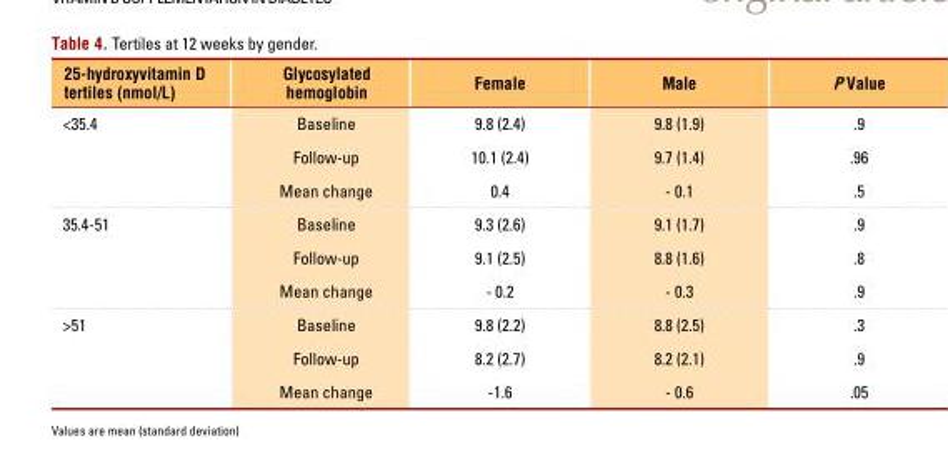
<table><thead><tr><td>25-hydroxyvitamin D tertiles (nmol/L)</td><td>Glycosylated hemoglobin</td><td>Female</td><td>Male</td><td>P Value</td></tr></thead><tbody><tr><td rowspan="3">&lt;35.4</td><td>Baseline</td><td>9.8 (2.4)</td><td>9.8 (1.9)</td><td>.9</td></tr><tr><td>Follow-up</td><td>10.1 (2.4)</td><td>9.7 (1.4)</td><td>.96</td></tr><tr><td>Mean change</td><td>0.4</td><td>- 0.1</td><td>.5</td></tr><tr><td rowspan="3">35.4-51</td><td>Baseline</td><td>9.3 (2.6)</td><td>9.1 (1.7)</td><td>.9</td></tr><tr><td>Follow-up</td><td>9.1 (2.5)</td><td>8.8 (1.6)</td><td>.8</td></tr><tr><td>Mean change</td><td>- 0.2</td><td>- 0.3</td><td>.9</td></tr><tr><td rowspan="3">&gt;51</td><td>Baseline</td><td>9.8 (2.2)</td><td>8.8 (2.5)</td><td>.3</td></tr><tr><td>Follow-up</td><td>8.2 (2.7)</td><td>8.2 (2.1)</td><td>.9</td></tr><tr><td>Mean change</td><td>-1.6</td><td>- 0.6</td><td>.05</td></tr></tbody></table>